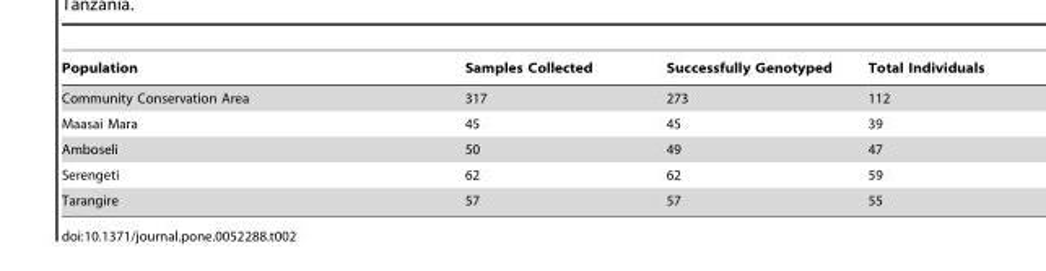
<table><thead><tr><td>Population</td><td>Samples Collected</td><td>Successfully Genotyped</td><td>Total Individuals</td></tr></thead><tbody><tr><td>Community Conservation Area</td><td>317</td><td>273</td><td>112</td></tr><tr><td>Maasai Mara</td><td>45</td><td>45</td><td>39</td></tr><tr><td>Amboseli</td><td>50</td><td>49</td><td>47</td></tr><tr><td>Serengeti</td><td>62</td><td>62</td><td>59</td></tr><tr><td>Tarangire</td><td>57</td><td>57</td><td>55</td></tr></tbody></table>